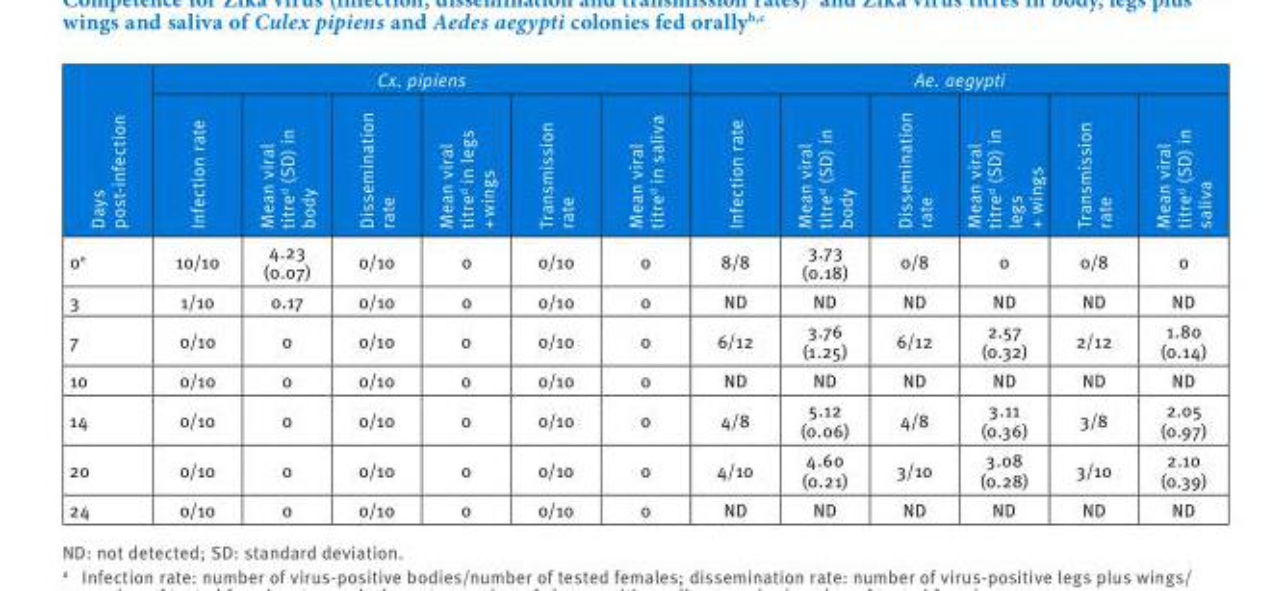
<table><thead><tr><td rowspan="2">Days post-infection</td><td colspan="6">Cx. pipiens</td><td colspan="6">Ae. aegypti</td></tr><tr><td>Infection rate</td><td>Mean viral titre<sup>d</sup> (SD) in body</td><td>Dissemination rate</td><td>Mean viral titre<sup>d</sup> in legs + wings</td><td>Transmission rate</td><td>Mean viral titre<sup>d</sup> in saliva</td><td>Infection rate</td><td>Mean viral titre<sup>d</sup> (SD) in body</td><td>Dissemination rate</td><td>Mean viral titre<sup>d</sup> (SD) in legs + wings</td><td>Transmission rate</td><td>Mean viral titre<sup>d</sup> (SD) in saliva</td></tr></thead><tbody><tr><td>0<sup>e</sup></td><td>10/10</td><td>4.23 (0.07)</td><td>0/10</td><td>0</td><td>0/10</td><td>0</td><td>8/8</td><td>3.73 (0.18)</td><td>0/8</td><td>0</td><td>0/8</td><td>0</td></tr><tr><td>3</td><td>1/10</td><td>0.17</td><td>0/10</td><td>0</td><td>0/10</td><td>0</td><td>ND</td><td>ND</td><td>ND</td><td>ND</td><td>ND</td><td>ND</td></tr><tr><td>7</td><td>0/10</td><td>0</td><td>0/10</td><td>0</td><td>0/10</td><td>0</td><td>6/12</td><td>3.76 (1.25)</td><td>6/12</td><td>2.57 (0.32)</td><td>2/12</td><td>1.80 (0.14)</td></tr><tr><td>10</td><td>0/10</td><td>0</td><td>0/10</td><td>0</td><td>0/10</td><td>0</td><td>ND</td><td>ND</td><td>ND</td><td>ND</td><td>ND</td><td>ND</td></tr><tr><td>14</td><td>0/10</td><td>0</td><td>0/10</td><td>0</td><td>0/10</td><td>0</td><td>4/8</td><td>5.12 (0.06)</td><td>4/8</td><td>3.11 (0.36)</td><td>3/8</td><td>2.05 (0.97)</td></tr><tr><td>20</td><td>0/10</td><td>0</td><td>0/10</td><td>0</td><td>0/10</td><td>0</td><td>4/10</td><td>4.60 (0.21)</td><td>3/10</td><td>3.08 (0.28)</td><td>3/10</td><td>2.10 (0.39)</td></tr><tr><td>24</td><td>0/10</td><td>0</td><td>0/10</td><td>0</td><td>0/10</td><td>0</td><td>ND</td><td>ND</td><td>ND</td><td>ND</td><td>ND</td><td>ND</td></tr></tbody></table>